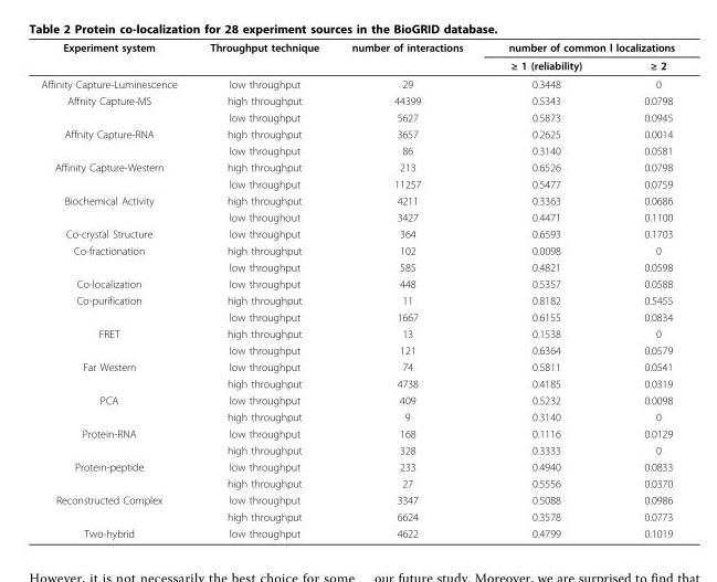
<table><thead><tr><td rowspan="2">Experiment system</td><td rowspan="2">Throughput technique</td><td rowspan="2">number of interactions</td><td colspan="2">number of common l localizations</td></tr><tr><td>≥ 1 (reliability)</td><td>≥ 2</td></tr></thead><tbody><tr><td>Affinity Capture-Luminescence</td><td>low throughput</td><td>29</td><td>0.3448</td><td>0</td></tr><tr><td rowspan="2">Affnity Capture-MS</td><td>high throughput</td><td>44399</td><td>0.5343</td><td>0.0798</td></tr><tr><td>low throughput</td><td>5627</td><td>0.5873</td><td>0.0945</td></tr><tr><td rowspan="2">Affnity Capture-RNA</td><td>high throughput</td><td>3657</td><td>0.2625</td><td>0.0014</td></tr><tr><td>low throughput</td><td>86</td><td>0.3140</td><td>0.0581</td></tr><tr><td rowspan="2">Affinity Capture-Western</td><td>high throughput</td><td>213</td><td>0.6526</td><td>0.0798</td></tr><tr><td>low throughput</td><td>11257</td><td>0.5477</td><td>0.0759</td></tr><tr><td rowspan="2">Biochemical Activity</td><td>high throughput</td><td>4211</td><td>0.3363</td><td>0.0686</td></tr><tr><td>low throughout</td><td>3427</td><td>0.4471</td><td>0.1100</td></tr><tr><td>Co-crystal Structure</td><td>low throughput</td><td>364</td><td>0.6593</td><td>0.1703</td></tr><tr><td rowspan="2">Co-fractionation</td><td>high throughput</td><td>102</td><td>0.0098</td><td>0</td></tr><tr><td>low throughput</td><td>585</td><td>0.4821</td><td>0.0598</td></tr><tr><td>Co-localization</td><td>low throughput</td><td>448</td><td>0.5357</td><td>0.0588</td></tr><tr><td rowspan="2">Co-purification</td><td>high throughput</td><td>11</td><td>0.8182</td><td>0.5455</td></tr><tr><td>low throughput</td><td>1667</td><td>0.6155</td><td>0.0834</td></tr><tr><td rowspan="2">FRET</td><td>high throughput</td><td>13</td><td>0.1538</td><td>0</td></tr><tr><td>low throughput</td><td>121</td><td>0.6364</td><td>0.0579</td></tr><tr><td rowspan="2">Far Western</td><td>low throughput</td><td>74</td><td>0.5811</td><td>0.0541</td></tr><tr><td>high throughput</td><td>4738</td><td>0.4185</td><td>0.0319</td></tr><tr><td rowspan="2">PCA</td><td>low throughput</td><td>409</td><td>0.5232</td><td>0.0098</td></tr><tr><td>high throughput</td><td>9</td><td>0.3140</td><td>0</td></tr><tr><td rowspan="2">Protein-RNA</td><td>low throughput</td><td>168</td><td>0.1116</td><td>0.0129</td></tr><tr><td>high throughput</td><td>328</td><td>0.3333</td><td>0</td></tr><tr><td rowspan="2">Protein-peptide</td><td>low throughput</td><td>233</td><td>0.4940</td><td>0.0833</td></tr><tr><td>high throughput</td><td>27</td><td>0.5556</td><td>0.0370</td></tr><tr><td rowspan="2">Reconstructed Complex</td><td>low throughput</td><td>3347</td><td>0.5088</td><td>0.0986</td></tr><tr><td>high throughput</td><td>6624</td><td>0.3578</td><td>0.0773</td></tr><tr><td>Two-hybrid</td><td>low throughput</td><td>4622</td><td>0.4799</td><td>0.1019</td></tr></tbody></table>